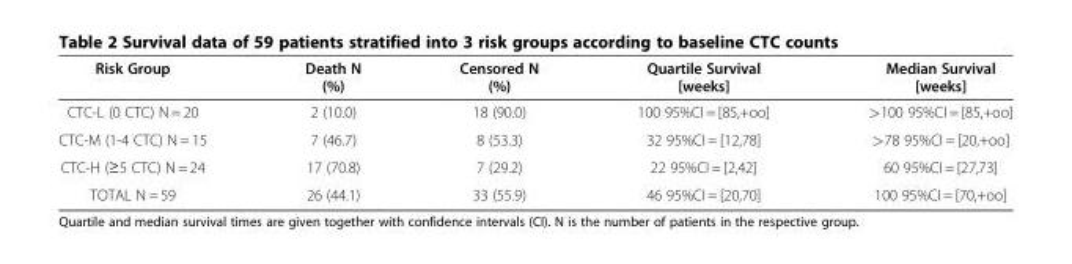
<table><thead><tr><td>Risk Group</td><td>Death N (%)</td><td>Censored N (%)</td><td>Quartile Survival [weeks]</td><td>Median Survival [weeks]</td></tr></thead><tbody><tr><td>CTC-L (0 CTC) N = 20</td><td>2 (10.0)</td><td>18 (90.0)</td><td>100 95%CI = [85,+oo]</td><td>&gt;100 95%CI = [85,+oo]</td></tr><tr><td>CTC-M (1-4 CTC) N = 15</td><td>7 (46.7)</td><td>8 (53.3)</td><td>32 95%CI = [12,78]</td><td>&gt;78 95%CI = [20,+oo]</td></tr><tr><td>CTC-H (≥5 CTC) N = 24</td><td>17 (70.8)</td><td>7 (29.2)</td><td>22 95%CI = [2,42]</td><td>60 95%CI = [27,73]</td></tr><tr><td>TOTAL N = 59</td><td>26 (44.1)</td><td>33 (55.9)</td><td>46 95%CI = [20,70]</td><td>100 95%CI = [70,+oo]</td></tr></tbody></table>